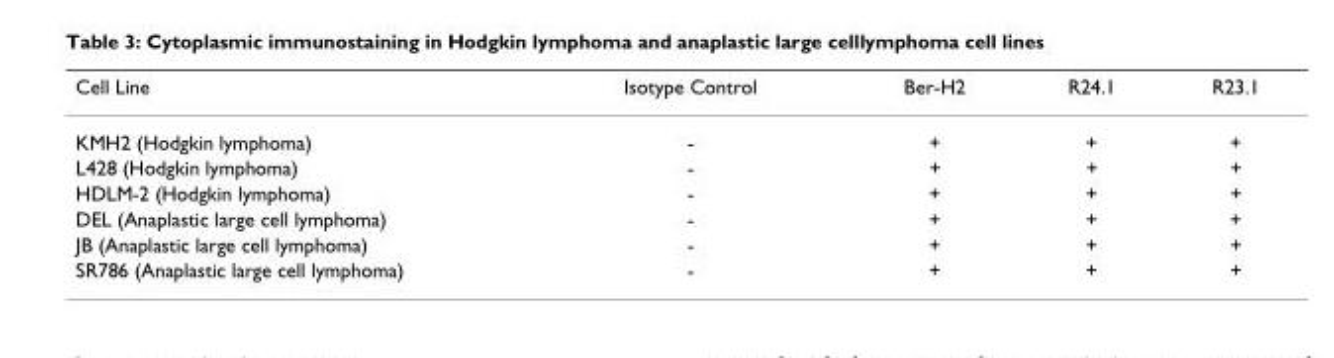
<table><thead><tr><td>Cell Line</td><td>Isotype Control</td><td>Ber-H2</td><td>R24.1</td><td>R23.1</td></tr></thead><tbody><tr><td>KMH2 (Hodgkin lymphoma)</td><td>-</td><td>+</td><td>+</td><td>+</td></tr><tr><td>L428 (Hodgkin lymphoma)</td><td>-</td><td>+</td><td>+</td><td>+</td></tr><tr><td>HDLM-2 (Hodgkin lymphoma)</td><td>-</td><td>+</td><td>+</td><td>+</td></tr><tr><td>DEL (Anaplastic large cell lymphoma)</td><td>-</td><td>+</td><td>+</td><td>+</td></tr><tr><td>JB (Anaplastic large cell lymphoma)</td><td>-</td><td>+</td><td>+</td><td>+</td></tr><tr><td>SR786 (Anaplastic large cell lymphoma)</td><td>-</td><td>+</td><td>+</td><td>+</td></tr></tbody></table>